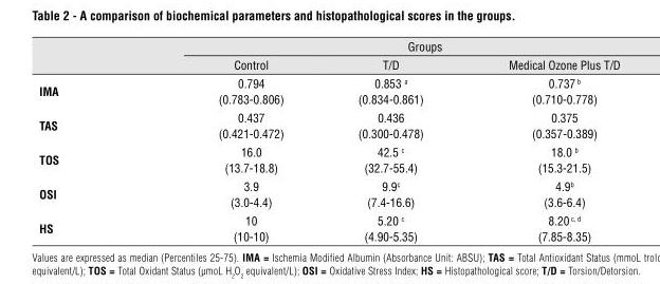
<table><thead><tr><td rowspan="2"></td><td colspan="3">Groups</td></tr><tr><td>Control</td><td>T/D</td><td>Medical Ozone Plus T/D</td></tr></thead><tbody><tr><td>IMA</td><td>0.794 (0.783-0.806)</td><td>0.853 <sup>a</sup> (0.834-0.861)</td><td>0.737 <sup>b</sup> (0.710-0.778)</td></tr><tr><td>TAs</td><td>0.437 (0.421-0.472)</td><td>0.436 (0.300-0.478)</td><td>0.375 (0.357-0.389)</td></tr><tr><td>TOs</td><td>16.0 (13.7-18.8)</td><td>42.5 <sup>c</sup> (32.7-55.4)</td><td>18.0 <sup>b</sup> (15.3-21.5)</td></tr><tr><td>OsI</td><td>3.9 (3.0-4.4)</td><td>9.9<sup>c</sup> (7.4-16.6)</td><td>4.9<sup>b</sup> (3.6-6.4)</td></tr><tr><td>hs</td><td>10 (10-10)</td><td>5.20 <sup>c</sup> (4.90-5.35)</td><td>8.20 <sup>c</sup>, <sup>d</sup> (7.85-8.35)</td></tr></tbody></table>